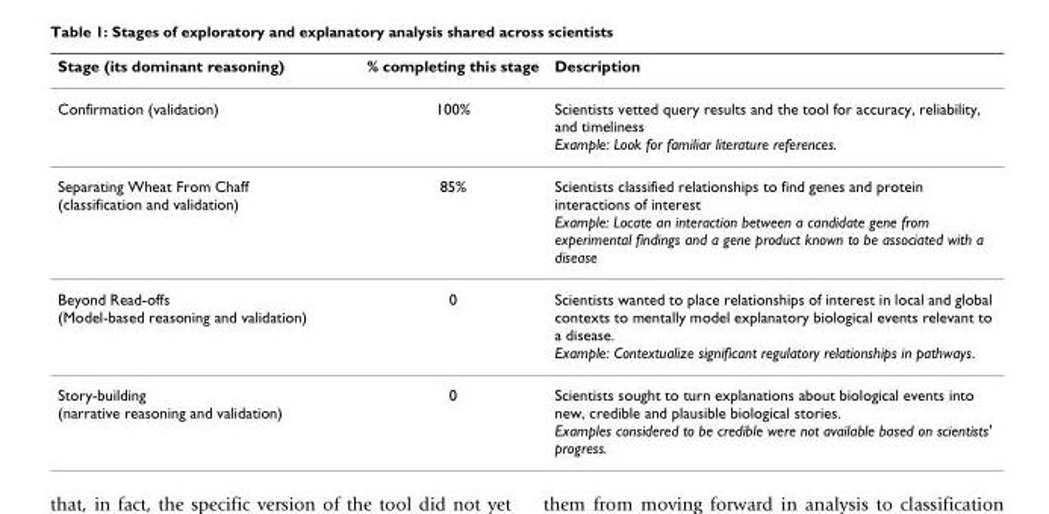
<table><thead><tr><td>Stage (its dominant reasoning)</td><td>% completing this stage</td><td>Description</td></tr></thead><tbody><tr><td>Confirmation (validation)</td><td>100%</td><td>Scientists vetted query results and the tool for accuracy, reliability, and timeliness Example: Look for familiar literature references.</td></tr><tr><td>Separating Wheat From Chaff (classification and validation)</td><td>85%</td><td>Scientists classified relationships to find genes and protein interactions of interest Example: Locate an interaction between a candidate gene from experimental findings and a gene product known to be associated with a disease</td></tr><tr><td>Beyond Read-offs (Model-based reasoning and validation)</td><td>0</td><td>Scientists wanted to place relationships of interest in local and global contexts to mentally model explanatory biological events relevant to a disease. Example: Contextualize significant regulatory relationships in pathways.</td></tr><tr><td>Story-building (narrative reasoning and validation)</td><td>0</td><td>Scientists sought to turn explanations about biological events into new, credible and plausible biological stories. Examples considered to be credible were not available based on scientists&#x27; progress.</td></tr></tbody></table>